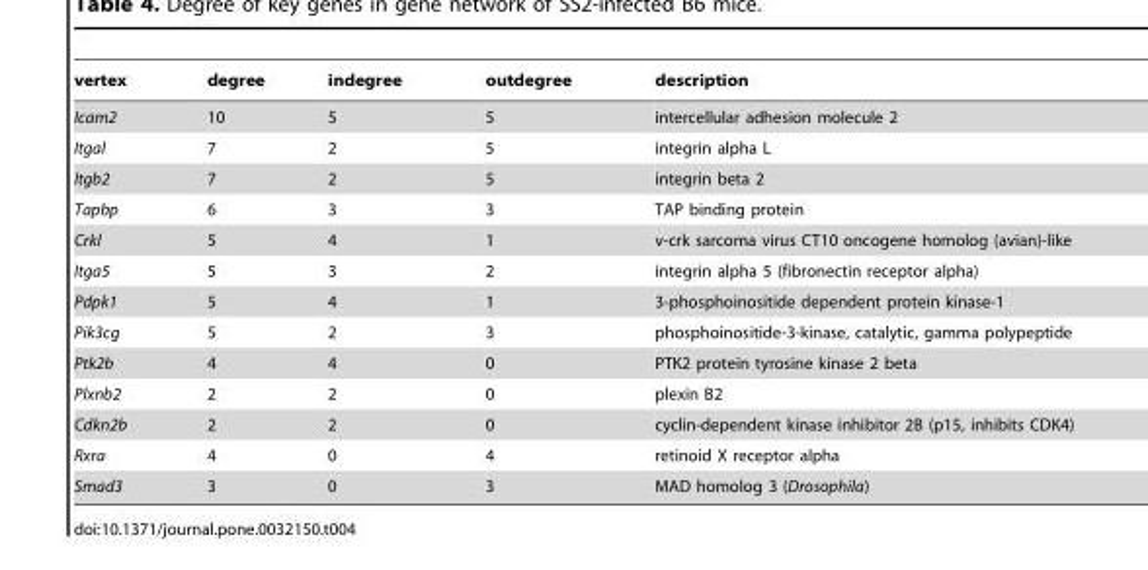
<table><thead><tr><td>vertex</td><td>degree</td><td>indegree</td><td>outdegree</td><td>description</td></tr></thead><tbody><tr><td>Icam2</td><td>10</td><td>5</td><td>5</td><td>intercellular adhesion molecule 2</td></tr><tr><td>Itgal</td><td>7</td><td>2</td><td>5</td><td>integrin alpha L</td></tr><tr><td>Itgb2</td><td>7</td><td>2</td><td>5</td><td>integrin beta 2</td></tr><tr><td>Tapbp</td><td>6</td><td>3</td><td>3</td><td>TAP binding protein</td></tr><tr><td>Crkl</td><td>5</td><td>4</td><td>1</td><td>v-crk sarcoma virus CT10 oncogene homolog (avian)-like</td></tr><tr><td>Itga5</td><td>5</td><td>3</td><td>2</td><td>integrin alpha 5 (fibronectin receptor alpha)</td></tr><tr><td>Pdpk1</td><td>5</td><td>4</td><td>1</td><td>3-phosphoinositide dependent protein kinase-1</td></tr><tr><td>Pik3cg</td><td>5</td><td>2</td><td>3</td><td>phosphoinositide-3-kinase, catalytic, gamma polypeptide</td></tr><tr><td>Ptk2b</td><td>4</td><td>4</td><td>0</td><td>PTK2 protein tyrosine kinase 2 beta</td></tr><tr><td>Plxnb2</td><td>2</td><td>2</td><td>0</td><td>plexin B2</td></tr><tr><td>Cdkn2b</td><td>2</td><td>2</td><td>0</td><td>cyclin-dependent kinase inhibitor 2B (p15, inhibits CDK4)</td></tr><tr><td>Rxra</td><td>4</td><td>0</td><td>4</td><td>retinoid X receptor alpha</td></tr><tr><td>Smad3</td><td>3</td><td>0</td><td>3</td><td>MAD homolog 3 (Drosophila)</td></tr></tbody></table>